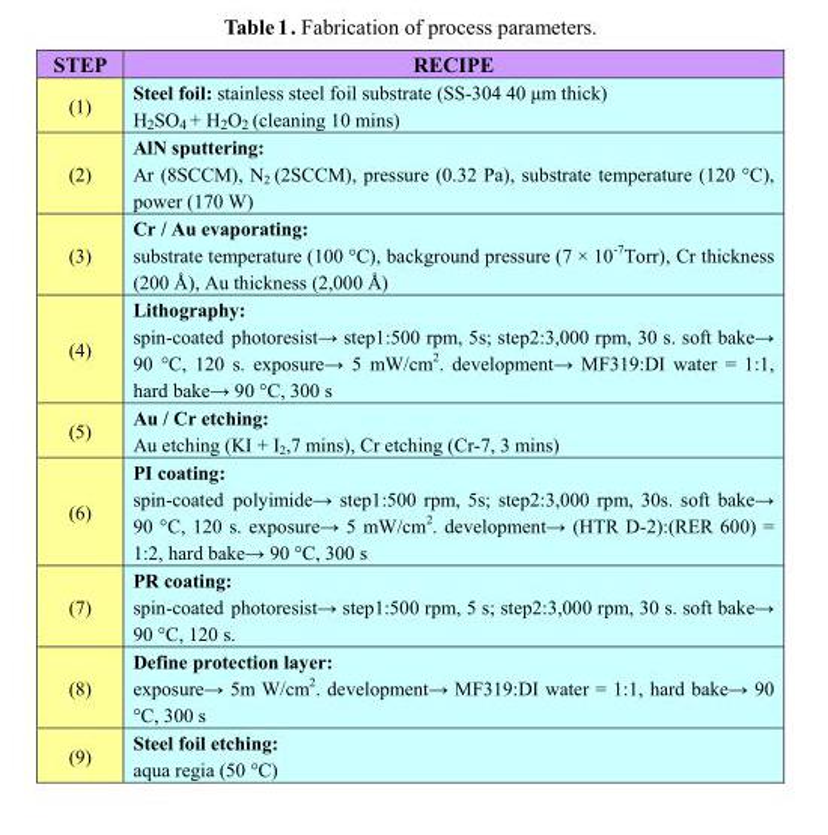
<table><thead><tr><td>STEP</td><td>RECIPE</td></tr></thead><tbody><tr><td>(1)</td><td>Steel foil: stainless steel foil substrate (SS-304 40 μm thick) H<sub>2</sub>SO<sub>4</sub> + H<sub>2</sub>O<sub>2</sub> (cleaning 10 mins)</td></tr><tr><td>(2)</td><td>AlN sputtering: Ar (8SCCM), N<sub>2</sub> (2SCCM), pressure (0.32 Pa), substrate temperature (120 °C), power (170 W)</td></tr><tr><td>(3)</td><td>Cr / Au evaporating: substrate temperature (100 °C), background pressure (7 × 10<sup>-7</sup>Torr), Cr thickness (200 Å), Au thickness (2,000 Å)</td></tr><tr><td>(4)</td><td>Lithography: spin-coated photoresist→ step1:500 rpm, 5s; step2:3,000 rpm, 30 s. soft bake→ 90 °C, 120 s. exposure→ 5 mW/cm<sup>2</sup>. development→ MF319:DI water = 1:1, hard bake→ 90 °C, 300 s</td></tr><tr><td>(5)</td><td>Au / Cr etching: Au etching (KI + I<sub>2</sub>,7 mins), Cr etching (Cr-7, 3 mins)</td></tr><tr><td>(6)</td><td>PI coating: spin-coated polyimide→ step1:500 rpm, 5s; step2:3,000 rpm, 30s. soft bake→ 90 °C, 120 s. exposure→ 5 mW/cm<sup>2</sup>. development→ (HTR D-2):(RER 600) = 1:2, hard bake→ 90 °C, 300 s</td></tr><tr><td>(7)</td><td>PR coating: spin-coated photoresist→ step1:500 rpm, 5 s; step2:3,000 rpm, 30 s. soft bake→ 90 °C, 120 s.</td></tr><tr><td>(8)</td><td>Define protection layer: exposure→ 5m W/cm<sup>2</sup>. development→ MF319:DI water = 1:1, hard bake→ 90 °C, 300 s</td></tr><tr><td>(9)</td><td>Steel foil etching: aqua regia (50 °C)</td></tr></tbody></table>